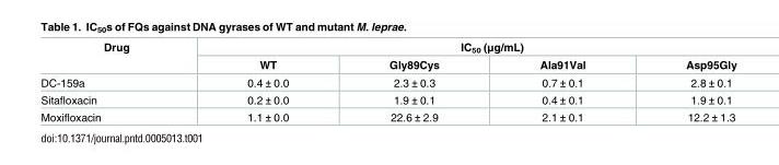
<table><thead><tr><td rowspan="2">Drug</td><td colspan="4">IC<sub>50</sub> (μg/mL)</td></tr><tr><td>WT</td><td>Gly89Cys</td><td>Ala91Val</td><td>Asp95Gly</td></tr></thead><tbody><tr><td>DC-159a</td><td>0.4 ± 0.0</td><td>2.3 ± 0.3</td><td>0.7 ± 0.1</td><td>2.8 ± 0.1</td></tr><tr><td>Sitafloxacin</td><td>0.2 ± 0.0</td><td>1.9 ± 0.1</td><td>0.4 ± 0.1</td><td>1.9 ± 0.1</td></tr><tr><td>Moxifloxacin</td><td>1.1 ± 0.0</td><td>22.6 ± 2.9</td><td>2.1 ± 0.1</td><td>12.2 ± 1.3</td></tr></tbody></table>